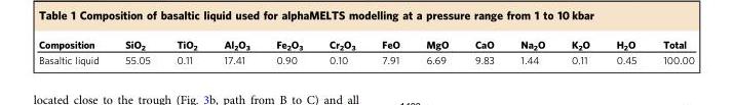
<table><thead><tr><td>Composition</td><td>SiO<sub>2</sub></td><td>TiO<sub>2</sub></td><td>Al<sub>2</sub>O<sub>3</sub></td><td>Fe<sub>2</sub>O<sub>3</sub></td><td>Cr<sub>2</sub>O<sub>3</sub></td><td>FeO</td><td>MgO</td><td>CaO</td><td>Na<sub>2</sub>O</td><td>K<sub>2</sub>O</td><td>H<sub>2</sub>O</td><td>Total</td></tr></thead><tbody><tr><td>Basaltic liquid</td><td>55.05</td><td>0.11</td><td>17.41</td><td>0.90</td><td>0.10</td><td>7.91</td><td>6.69</td><td>9.83</td><td>1.44</td><td>0.11</td><td>0.45</td><td>100.00</td></tr></tbody></table>